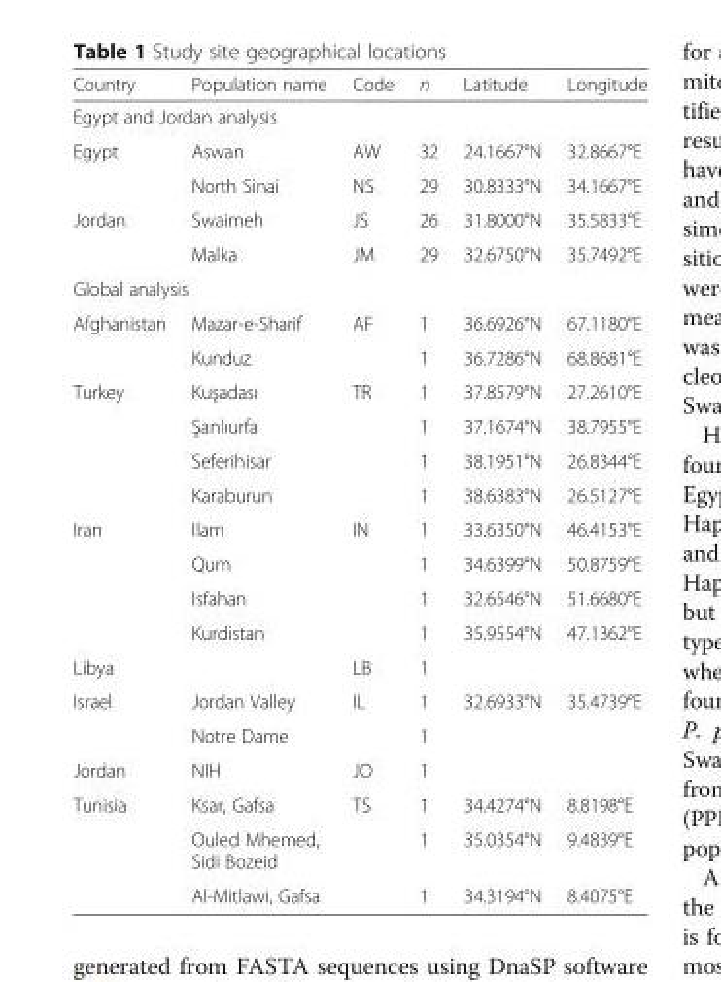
<table><thead><tr><td>Country</td><td>Population name</td><td>Code</td><td>n</td><td>Latitude</td><td>Longitude</td></tr></thead><tbody><tr><td colspan="6">Egypt and Jordan analysis</td></tr><tr><td rowspan="2">Egypt</td><td>Aswan</td><td>AW</td><td>32</td><td>24.1667°N</td><td>32.8667°E</td></tr><tr><td>North Sinai</td><td>NS</td><td>29</td><td>30.8333°N</td><td>34.1667°E</td></tr><tr><td rowspan="2">Jordan</td><td>Swaimeh</td><td>JS</td><td>26</td><td>31.8000°N</td><td>35.5833°E</td></tr><tr><td>Malka</td><td>JM</td><td>29</td><td>32.6750°N</td><td>35.7492°E</td></tr><tr><td colspan="6">Global analysis</td></tr><tr><td rowspan="2">Afghanistan</td><td>Mazar-e-Sharif</td><td rowspan="2">AF</td><td>1</td><td>36.6926°N</td><td>67.1180°E</td></tr><tr><td>Kunduz</td><td>1</td><td>36.7286°N</td><td>68.8681°E</td></tr><tr><td rowspan="4">Turkey</td><td>Kuşadası</td><td rowspan="4">TR</td><td>1</td><td>37.8579°N</td><td>27.2610°E</td></tr><tr><td>Şanlıurfa</td><td>1</td><td>37.1674°N</td><td>38.7955°E</td></tr><tr><td>Seferihisar</td><td>1</td><td>38.1951°N</td><td>26.8344°E</td></tr><tr><td>Karaburun</td><td>1</td><td>38.6383°N</td><td>26.5127°E</td></tr><tr><td rowspan="4">Iran</td><td>Ilam</td><td rowspan="4">IN</td><td>1</td><td>33.6350°N</td><td>46.4153°E</td></tr><tr><td>Qum</td><td>1</td><td>34.6399°N</td><td>50.8759°E</td></tr><tr><td>Isfahan</td><td>1</td><td>32.6546°N</td><td>51.6680°E</td></tr><tr><td>Kurdistan</td><td>1</td><td>35.9554°N</td><td>47.1362°E</td></tr><tr><td>Libya</td><td></td><td>LB</td><td>1</td><td></td><td></td></tr><tr><td rowspan="2">Israel</td><td>Jordan Valley</td><td rowspan="2">IL</td><td>1</td><td>32.6933°N</td><td>35.4739°E</td></tr><tr><td>Notre Dame</td><td>1</td><td></td><td></td></tr><tr><td>Jordan</td><td>NIH</td><td>JO</td><td>1</td><td></td><td></td></tr><tr><td rowspan="3">Tunisia</td><td>Ksar, Gafsa</td><td rowspan="3">TS</td><td>1</td><td>34.4274°N</td><td>8.8198°E</td></tr><tr><td>Ouled Mhemed, Sidi Bozeid</td><td>1</td><td>35.0354°N</td><td>9.4839°E</td></tr><tr><td>Al-Mitlawi, Gafsa</td><td>1</td><td>34.3194°N</td><td>8.4075°E</td></tr></tbody></table>